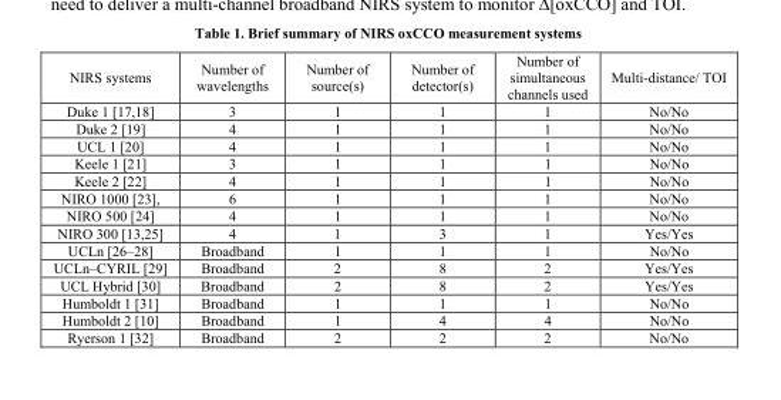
<table><thead><tr><td>NIRS systems</td><td>Number of wavelengths</td><td>Number of source(s)</td><td>Number of detector(s)</td><td>Number of simultaneous channels used</td><td>Multi-distance/ TOI</td></tr></thead><tbody><tr><td>Duke 1 [17,18]</td><td>3</td><td>1</td><td>1</td><td>1</td><td>No/No</td></tr><tr><td>Duke 2 [19]</td><td>4</td><td>1</td><td>1</td><td>1</td><td>No/No</td></tr><tr><td>UCL 1 [20]</td><td>4</td><td>1</td><td>1</td><td>1</td><td>No/No</td></tr><tr><td>Keele 1 [21]</td><td>3</td><td>1</td><td>1</td><td>1</td><td>No/No</td></tr><tr><td>Keele 2 [22]</td><td>4</td><td>1</td><td>1</td><td>1</td><td>No/No</td></tr><tr><td>NIRO 1000 [23],</td><td>6</td><td>1</td><td>1</td><td>1</td><td>No/No</td></tr><tr><td>NIRO 500 [24]</td><td>4</td><td>1</td><td>1</td><td>1</td><td>No/No</td></tr><tr><td>NIRO 300 [13,25]</td><td>4</td><td>1</td><td>3</td><td>1</td><td>Yes/Yes</td></tr><tr><td>UCLn [26–28]</td><td>Broadband</td><td>1</td><td>1</td><td>1</td><td>No/No</td></tr><tr><td>UCLn–CYRIL [29]</td><td>Broadband</td><td>2</td><td>8</td><td>2</td><td>Yes/Yes</td></tr><tr><td>UCL Hybrid [30]</td><td>Broadband</td><td>2</td><td>8</td><td>2</td><td>Yes/Yes</td></tr><tr><td>Humboldt 1 [31]</td><td>Broadband</td><td>1</td><td>1</td><td>1</td><td>No/No</td></tr><tr><td>Humboldt 2 [10]</td><td>Broadband</td><td>1</td><td>4</td><td>4</td><td>No/No</td></tr><tr><td>Ryerson 1 [32]</td><td>Broadband</td><td>2</td><td>2</td><td>2</td><td>No/No</td></tr></tbody></table>